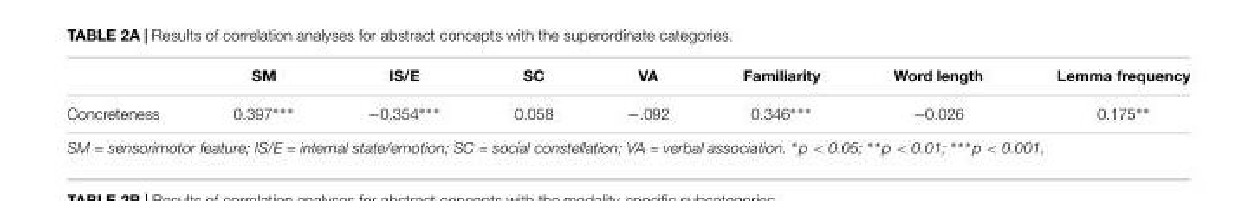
<table><thead><tr><td></td><td>SM</td><td>IS/E</td><td>SC</td><td>VA</td><td>Familiarity</td><td>Word length</td><td>Lemma frequency</td></tr></thead><tbody><tr><td>Concreteness</td><td>0.397∗∗∗</td><td>−0.354∗∗∗</td><td>0.058</td><td>−.092</td><td>0.346∗∗∗</td><td>−0.026</td><td>0.175∗∗</td></tr></tbody></table>